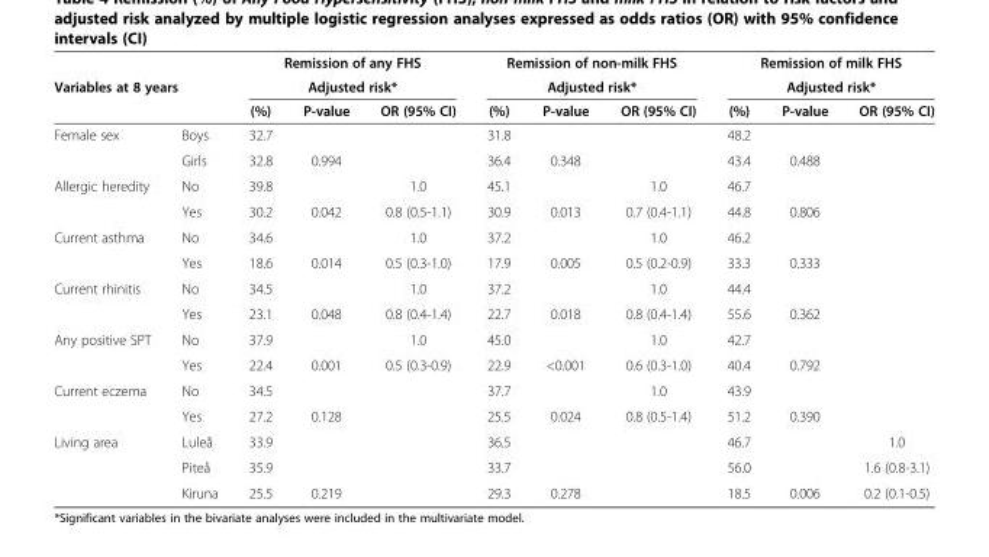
<table><thead><tr><td></td><td></td><td rowspan="2" colspan="3">Remission of any FHS Adjusted risk*</td><td rowspan="2" colspan="3">Remission of non-milk FHS Adjusted risk*</td><td rowspan="2" colspan="3">Remission of milk FHS Adjusted risk*</td></tr><tr><td colspan="2">Variables at 8 years</td></tr><tr><td></td><td></td><td>(%)</td><td>P-value</td><td>OR (95% CI)</td><td>(%)</td><td>P-value</td><td>OR (95% CI)</td><td>(%)</td><td>P-value</td><td>OR (95% CI)</td></tr></thead><tbody><tr><td rowspan="2">Female sex</td><td>Boys</td><td>32.7</td><td></td><td></td><td>31.8</td><td></td><td></td><td>48.2</td><td></td><td></td></tr><tr><td>Girls</td><td>32.8</td><td>0.994</td><td></td><td>36.4</td><td>0.348</td><td></td><td>43.4</td><td>0.488</td><td></td></tr><tr><td rowspan="2">Allergic heredity</td><td>No</td><td>39.8</td><td></td><td>1.0</td><td>45.1</td><td></td><td>1.0</td><td>46.7</td><td></td><td></td></tr><tr><td>Yes</td><td>30.2</td><td>0.042</td><td>0.8 (0.5-1.1)</td><td>30.9</td><td>0.013</td><td>0.7 (0.4-1.1)</td><td>44.8</td><td>0.806</td><td></td></tr><tr><td rowspan="2">Current asthma</td><td>No</td><td>34.6</td><td></td><td>1.0</td><td>37.2</td><td></td><td>1.0</td><td>46.2</td><td></td><td></td></tr><tr><td>Yes</td><td>18.6</td><td>0.014</td><td>0.5 (0.3-1.0)</td><td>17.9</td><td>0.005</td><td>0.5 (0.2-0.9)</td><td>33.3</td><td>0.333</td><td></td></tr><tr><td rowspan="2">Current rhinitis</td><td>No</td><td>34.5</td><td></td><td>1.0</td><td>37.2</td><td></td><td>1.0</td><td>44.4</td><td></td><td></td></tr><tr><td>Yes</td><td>23.1</td><td>0.048</td><td>0.8 (0.4-1.4)</td><td>22.7</td><td>0.018</td><td>0.8 (0.4-1.4)</td><td>55.6</td><td>0.362</td><td></td></tr><tr><td rowspan="2">Any positive SPT</td><td>No</td><td>37.9</td><td></td><td>1.0</td><td>45.0</td><td></td><td>1.0</td><td>42.7</td><td></td><td></td></tr><tr><td>Yes</td><td>22.4</td><td>0.001</td><td>0.5 (0.3-0.9)</td><td>22.9</td><td>&lt;0.001</td><td>0.6 (0.3-1.0)</td><td>40.4</td><td>0.792</td><td></td></tr><tr><td rowspan="2">Current eczema</td><td>No</td><td>34.5</td><td></td><td></td><td>37.7</td><td></td><td>1.0</td><td>43.9</td><td></td><td></td></tr><tr><td>Yes</td><td>27.2</td><td>0.128</td><td></td><td>25.5</td><td>0.024</td><td>0.8 (0.5-1.4)</td><td>51.2</td><td>0.390</td><td></td></tr><tr><td rowspan="3">Living area</td><td>Luleå</td><td>33.9</td><td></td><td></td><td>36.5</td><td></td><td></td><td>46.7</td><td></td><td>1.0</td></tr><tr><td>Piteå</td><td>35.9</td><td></td><td></td><td>33.7</td><td></td><td></td><td>56.0</td><td></td><td>1.6 (0.8-3.1)</td></tr><tr><td>Kiruna</td><td>25.5</td><td>0.219</td><td></td><td>29.3</td><td>0.278</td><td></td><td>18.5</td><td>0.006</td><td>0.2 (0.1-0.5)</td></tr></tbody></table>